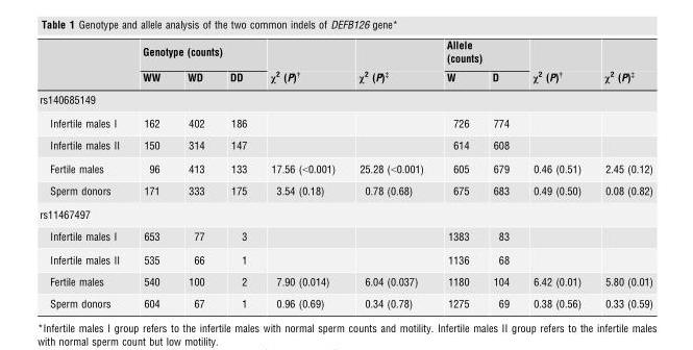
<table><thead><tr><td rowspan="2"></td><td colspan="3">Genotype (counts)</td><td rowspan="2">χ<sup>2</sup> (P)†</td><td rowspan="2">χ<sup>2</sup> (P)‡</td><td colspan="2">Allele (counts)</td><td rowspan="2">χ<sup>2</sup> (P)†</td><td rowspan="2">χ<sup>2</sup> (P)‡</td></tr><tr><td>WW</td><td>WD</td><td>DD</td><td>W</td><td>D</td></tr></thead><tbody><tr><td colspan="10">rs140685149</td></tr><tr><td>Infertile males I</td><td>162</td><td>402</td><td>186</td><td></td><td></td><td>726</td><td>774</td><td></td><td></td></tr><tr><td>Infertile males II</td><td>150</td><td>314</td><td>147</td><td></td><td></td><td>614</td><td>608</td><td></td><td></td></tr><tr><td>Fertile males</td><td>96</td><td>413</td><td>133</td><td>17.56 (&lt;0.001)</td><td>25.28 (&lt;0.001)</td><td>605</td><td>679</td><td>0.46 (0.51)</td><td>2.45 (0.12)</td></tr><tr><td>Sperm donors</td><td>171</td><td>333</td><td>175</td><td>3.54 (0.18)</td><td>0.78 (0.68)</td><td>675</td><td>683</td><td>0.49 (0.50)</td><td>0.08 (0.82)</td></tr><tr><td colspan="10">rs11467497</td></tr><tr><td>Infertile males I</td><td>653</td><td>77</td><td>3</td><td></td><td></td><td>1383</td><td>83</td><td></td><td></td></tr><tr><td>Infertile males II</td><td>535</td><td>66</td><td>1</td><td></td><td></td><td>1136</td><td>68</td><td></td><td></td></tr><tr><td>Fertile males</td><td>540</td><td>100</td><td>2</td><td>7.90 (0.014)</td><td>6.04 (0.037)</td><td>1180</td><td>104</td><td>6.42 (0.01)</td><td>5.80 (0.01)</td></tr><tr><td>Sperm donors</td><td>604</td><td>67</td><td>1</td><td>0.96 (0.69)</td><td>0.34 (0.78)</td><td>1275</td><td>69</td><td>0.38 (0.56)</td><td>0.33 (0.59)</td></tr></tbody></table>